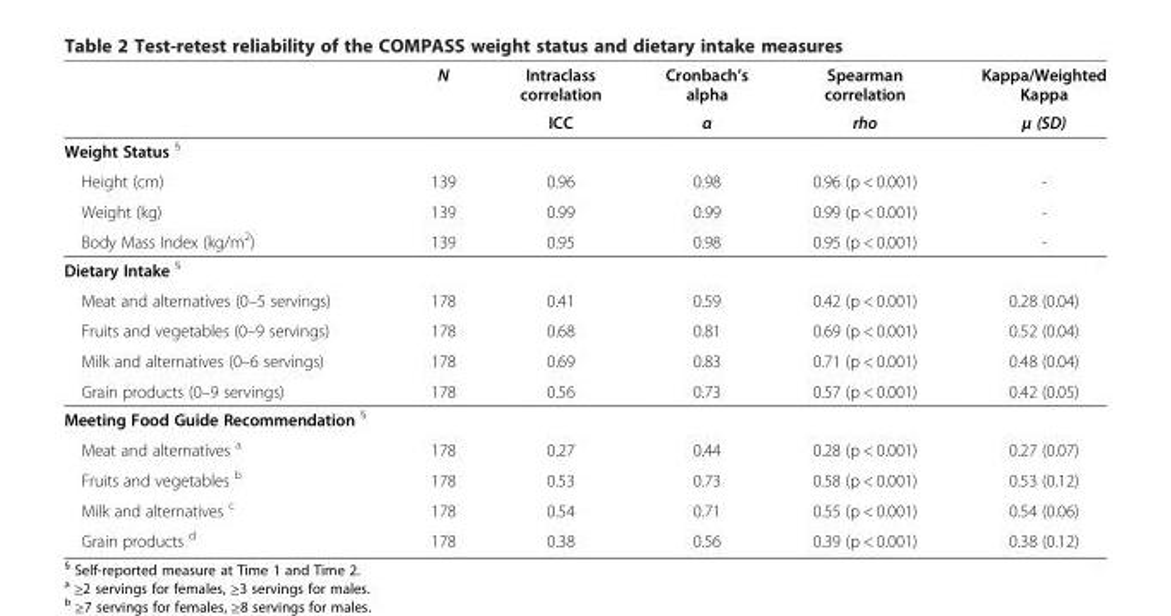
<table><thead><tr><td rowspan="2"></td><td rowspan="2">N</td><td rowspan="2">Intraclass correlation ICC</td><td rowspan="2">Cronbach’s alpha α</td><td rowspan="2">Spearman correlation rho</td><td rowspan="2">Kappa/Weighted Kappa μ (SD)</td></tr><tr></tr></thead><tbody><tr><td colspan="6">Weight Status <sup>§</sup></td></tr><tr><td>Height (cm)</td><td>139</td><td>0.96</td><td>0.98</td><td>0.96 (p &lt; 0.001)</td><td>-</td></tr><tr><td>Weight (kg)</td><td>139</td><td>0.99</td><td>0.99</td><td>0.99 (p &lt; 0.001)</td><td>-</td></tr><tr><td>Body Mass Index (kg/m<sup>2</sup>)</td><td>139</td><td>0.95</td><td>0.98</td><td>0.95 (p &lt; 0.001)</td><td>-</td></tr><tr><td colspan="6">Dietary Intake <sup>§</sup></td></tr><tr><td>Meat and alternatives (0–5 servings)</td><td>178</td><td>0.41</td><td>0.59</td><td>0.42 (p &lt; 0.001)</td><td>0.28 (0.04)</td></tr><tr><td>Fruits and vegetables (0–9 servings)</td><td>178</td><td>0.68</td><td>0.81</td><td>0.69 (p &lt; 0.001)</td><td>0.52 (0.04)</td></tr><tr><td>Milk and alternatives (0–6 servings)</td><td>178</td><td>0.69</td><td>0.83</td><td>0.71 (p &lt; 0.001)</td><td>0.48 (0.04)</td></tr><tr><td>Grain products (0–9 servings)</td><td>178</td><td>0.56</td><td>0.73</td><td>0.57 (p &lt; 0.001)</td><td>0.42 (0.05)</td></tr><tr><td colspan="6">Meeting Food Guide Recommendation <sup>§</sup></td></tr><tr><td>Meat and alternatives <sup>a</sup></td><td>178</td><td>0.27</td><td>0.44</td><td>0.28 (p &lt; 0.001)</td><td>0.27 (0.07)</td></tr><tr><td>Fruits and vegetables <sup>b</sup></td><td>178</td><td>0.53</td><td>0.73</td><td>0.58 (p &lt; 0.001)</td><td>0.53 (0.12)</td></tr><tr><td>Milk and alternatives <sup>c</sup></td><td>178</td><td>0.54</td><td>0.71</td><td>0.55 (p &lt; 0.001)</td><td>0.54 (0.06)</td></tr><tr><td>Grain products <sup>d</sup></td><td>178</td><td>0.38</td><td>0.56</td><td>0.39 (p &lt; 0.001)</td><td>0.38 (0.12)</td></tr></tbody></table>